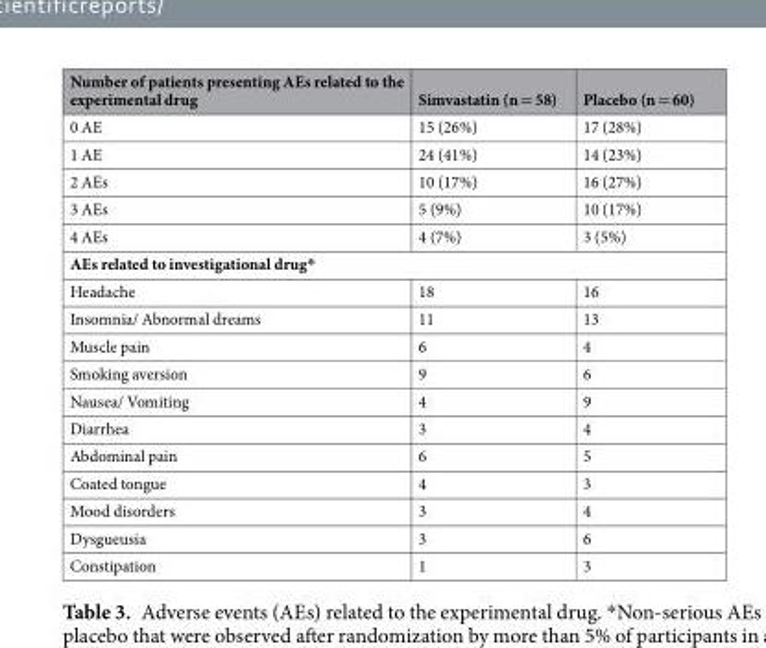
<table><thead><tr><td>Number of patients presenting AEs related to the experimental drug</td><td>Simvastatin (n = 58)</td><td>Placebo (n = 60)</td></tr></thead><tbody><tr><td>0 AE</td><td>15 (26%)</td><td>17 (28%)</td></tr><tr><td>1 AE</td><td>24 (41%)</td><td>14 (23%)</td></tr><tr><td>2 AEs</td><td>10 (17%)</td><td>16 (27%)</td></tr><tr><td>3 AEs</td><td>5 (9%)</td><td>10 (17%)</td></tr><tr><td>4 AEs</td><td>4 (7%)</td><td>3 (5%)</td></tr><tr><td colspan="3">AEs related to investigational drug*</td></tr><tr><td>Headache</td><td>18</td><td>16</td></tr><tr><td>Insomnia/ Abnormal dreams</td><td>11</td><td>13</td></tr><tr><td>Muscle pain</td><td>6</td><td>4</td></tr><tr><td>Smoking aversion</td><td>9</td><td>6</td></tr><tr><td>Nausea/ Vomiting</td><td>4</td><td>9</td></tr><tr><td>Diarrhea</td><td>3</td><td>4</td></tr><tr><td>Abdominal pain</td><td>6</td><td>5</td></tr><tr><td>Coated tongue</td><td>4</td><td>3</td></tr><tr><td>Mood disorders</td><td>3</td><td>4</td></tr><tr><td>Dysgueusia</td><td>3</td><td>6</td></tr><tr><td>Constipation</td><td>1</td><td>3</td></tr></tbody></table>